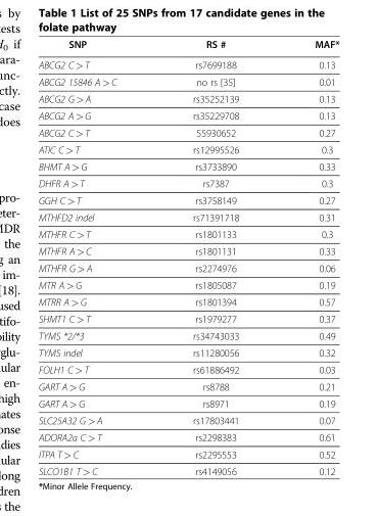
<table><thead><tr><td>SNP</td><td>RS #</td><td>MAF*</td></tr></thead><tbody><tr><td>ABCG2 C &gt; T</td><td>rs7699188</td><td>0.13</td></tr><tr><td>ABCG2 15846 A &gt; C</td><td>no rs [35]</td><td>0.01</td></tr><tr><td>ABCG2 G &gt; A</td><td>rs35252139</td><td>0.13</td></tr><tr><td>ABCG2 A &gt; G</td><td>rs35229708</td><td>0.13</td></tr><tr><td>ABCG2 C &gt; T</td><td>55930652</td><td>0.27</td></tr><tr><td>ATIC C &gt; T</td><td>rs12995526</td><td>0.3</td></tr><tr><td>BHMT A &gt; G</td><td>rs3733890</td><td>0.33</td></tr><tr><td>DHFR A &gt;T</td><td>rs7387</td><td>0.3</td></tr><tr><td>GGH C &gt; T</td><td>rs3758149</td><td>0.27</td></tr><tr><td>MTHFD2 indel</td><td>rs71391718</td><td>0.31</td></tr><tr><td>MTHFR C &gt; T</td><td>rs1801133</td><td>0.3</td></tr><tr><td>MTHFR A &gt; C</td><td>rs1801131</td><td>0.33</td></tr><tr><td>MTHFR G &gt; A</td><td>rs2274976</td><td>0.06</td></tr><tr><td>MTR A &gt; G</td><td>rs1805087</td><td>0.19</td></tr><tr><td>MTRR A &gt; G</td><td>rs1801394</td><td>0.57</td></tr><tr><td>SHMT1 C &gt; T</td><td>rs1979277</td><td>0.37</td></tr><tr><td>TYMS *2/*3</td><td>rs34743033</td><td>0.49</td></tr><tr><td>TYMS indel</td><td>rs11280056</td><td>0.32</td></tr><tr><td>FOLH1 C &gt; T</td><td>rs61886492</td><td>0.03</td></tr><tr><td>GART A &gt; G</td><td>rs8788</td><td>0.21</td></tr><tr><td>GART A &gt; G</td><td>rs8971</td><td>0.19</td></tr><tr><td>SLC25A32 G &gt; A</td><td>rs17803441</td><td>0.07</td></tr><tr><td>ADORA2a C &gt; T</td><td>rs2298383</td><td>0.61</td></tr><tr><td>ITPA T &gt; C</td><td>rs2295553</td><td>0.52</td></tr><tr><td>SLCO1B1 T &gt; C</td><td>rs4149056</td><td>0.12</td></tr></tbody></table>